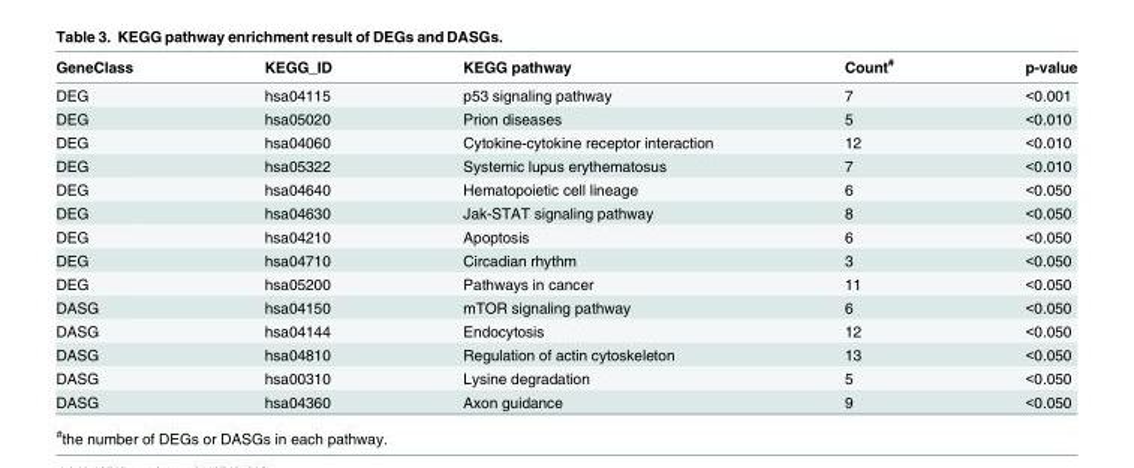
<table><thead><tr><td>GeneClass</td><td>KEGG_ID</td><td>KEGG pathway</td><td>Count<sup>#</sup></td><td>p-value</td></tr></thead><tbody><tr><td>DEG</td><td>hsa04115</td><td>p53 signaling pathway</td><td>7</td><td>&lt;0.001</td></tr><tr><td>DEG</td><td>hsa05020</td><td>Prion diseases</td><td>5</td><td>&lt;0.010</td></tr><tr><td>DEG</td><td>hsa04060</td><td>Cytokine-cytokine receptor interaction</td><td>12</td><td>&lt;0.010</td></tr><tr><td>DEG</td><td>hsa05322</td><td>Systemic lupus erythematosus</td><td>7</td><td>&lt;0.010</td></tr><tr><td>DEG</td><td>hsa04640</td><td>Hematopoietic cell lineage</td><td>6</td><td>&lt;0.050</td></tr><tr><td>DEG</td><td>hsa04630</td><td>Jak-STAT signaling pathway</td><td>8</td><td>&lt;0.050</td></tr><tr><td>DEG</td><td>hsa04210</td><td>Apoptosis</td><td>6</td><td>&lt;0.050</td></tr><tr><td>DEG</td><td>hsa04710</td><td>Circadian rhythm</td><td>3</td><td>&lt;0.050</td></tr><tr><td>DEG</td><td>hsa05200</td><td>Pathways in cancer</td><td>11</td><td>&lt;0.050</td></tr><tr><td>DASG</td><td>hsa04150</td><td>mTOR signaling pathway</td><td>6</td><td>&lt;0.050</td></tr><tr><td>DASG</td><td>hsa04144</td><td>Endocytosis</td><td>12</td><td>&lt;0.050</td></tr><tr><td>DASG</td><td>hsa04810</td><td>Regulation of actin cytoskeleton</td><td>13</td><td>&lt;0.050</td></tr><tr><td>DASG</td><td>hsa00310</td><td>Lysine degradation</td><td>5</td><td>&lt;0.050</td></tr><tr><td>DASG</td><td>hsa04360</td><td>Axon guidance</td><td>9</td><td>&lt;0.050</td></tr></tbody></table>